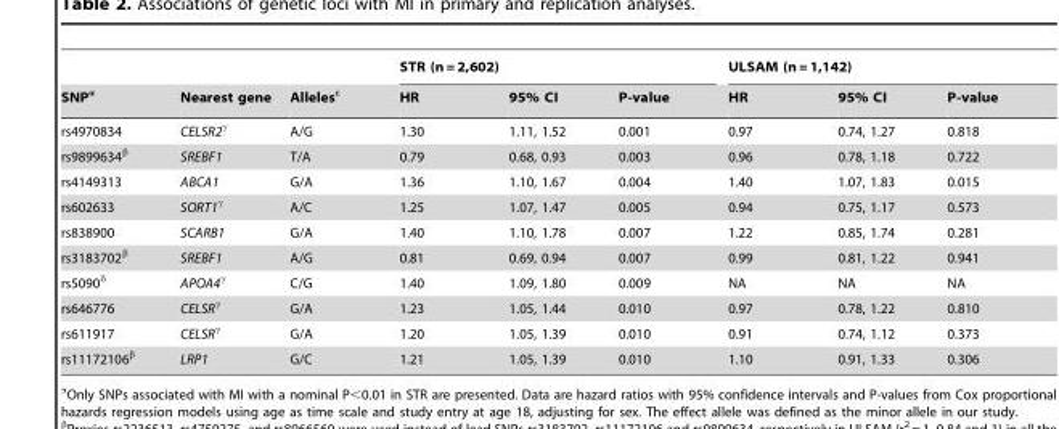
<table><thead><tr><td rowspan="2">SNPα</td><td rowspan="2">Nearest gene</td><td rowspan="2">Allelesε</td><td colspan="3">STR (n = 2,602)</td><td colspan="3">ULSAM (n = 1,142)</td></tr><tr><td>HR</td><td>95% CI</td><td>P-value</td><td>HR</td><td>95% CI</td><td>P-value</td></tr></thead><tbody><tr><td>rs4970834</td><td>CELSR2γ</td><td>A/G</td><td>1.30</td><td>1.11, 1.52</td><td>0.001</td><td>0.97</td><td>0.74, 1.27</td><td>0.818</td></tr><tr><td>rs9899634β</td><td>SREBF1</td><td>T/A</td><td>0.79</td><td>0.68, 0.93</td><td>0.003</td><td>0.96</td><td>0.78, 1.18</td><td>0.722</td></tr><tr><td>rs4149313</td><td>ABCA1</td><td>G/A</td><td>1.36</td><td>1.10, 1.67</td><td>0.004</td><td>1.40</td><td>1.07, 1.83</td><td>0.015</td></tr><tr><td>rs602633</td><td>SORT1γ</td><td>A/C</td><td>1.25</td><td>1.07, 1.47</td><td>0.005</td><td>0.94</td><td>0.75, 1.17</td><td>0.573</td></tr><tr><td>rs838900</td><td>SCARB1</td><td>G/A</td><td>1.40</td><td>1.10, 1.78</td><td>0.007</td><td>1.22</td><td>0.85, 1.74</td><td>0.281</td></tr><tr><td>rs3183702β</td><td>SREBF1</td><td>A/G</td><td>0.81</td><td>0.69, 0.94</td><td>0.007</td><td>0.99</td><td>0.81, 1.22</td><td>0.941</td></tr><tr><td>rs5090δ</td><td>APOA4γ</td><td>C/G</td><td>1.40</td><td>1.09, 1.80</td><td>0.009</td><td>NA</td><td>NA</td><td>NA</td></tr><tr><td>rs646776</td><td>CELSRγ</td><td>G/A</td><td>1.23</td><td>1.05, 1.44</td><td>0.010</td><td>0.97</td><td>0.78, 1.22</td><td>0.810</td></tr><tr><td>rs611917</td><td>CELSRγ</td><td>G/A</td><td>1.20</td><td>1.05, 1.39</td><td>0.010</td><td>0.91</td><td>0.74, 1.12</td><td>0.373</td></tr><tr><td>rs11172106β</td><td>LRP1</td><td>G/C</td><td>1.21</td><td>1.05, 1.39</td><td>0.010</td><td>1.10</td><td>0.91, 1.33</td><td>0.306</td></tr></tbody></table>